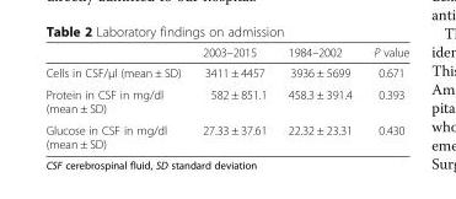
<table><thead><tr><td></td><td>2003–2015</td><td>1984–2002</td><td>P value</td></tr></thead><tbody><tr><td>Cells in CSF/μl (mean ± SD)</td><td>3411 ± 4457</td><td>3936 ± 5699</td><td>0.671</td></tr><tr><td>Protein in CSF in mg/dl (mean ± SD)</td><td>582 ± 851.1</td><td>458.3 ± 391.4</td><td>0.393</td></tr><tr><td>Glucose in CSF in mg/dl (mean ± SD)</td><td>27.33 ± 37.61</td><td>22.32 ± 23.31</td><td>0.430</td></tr></tbody></table>